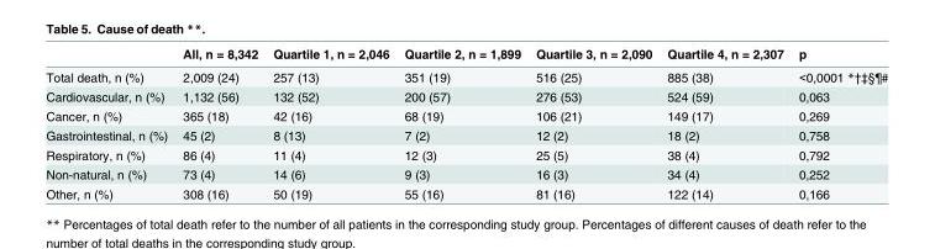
<table><thead><tr><td></td><td>All, n = 8,342</td><td>Quartile 1, n = 2,046</td><td>Quartile 2, n = 1,899</td><td>Quartile 3, n = 2,090</td><td>Quartile 4, n = 2,307</td><td>p</td></tr></thead><tbody><tr><td>Total death, n (%)</td><td>2,009 (24)</td><td>257 (13)</td><td>351 (19)</td><td>516 (25)</td><td>885 (38)</td><td>&lt;0,0001 *†‡§¶#</td></tr><tr><td>Cardiovascular, n (%)</td><td>1,132 (56)</td><td>132 (52)</td><td>200 (57)</td><td>276 (53)</td><td>524 (59)</td><td>0,063</td></tr><tr><td>Cancer, n (%)</td><td>365 (18)</td><td>42 (16)</td><td>68 (19)</td><td>106 (21)</td><td>149 (17)</td><td>0,269</td></tr><tr><td>Gastrointestinal, n (%)</td><td>45 (2)</td><td>8 (13)</td><td>7 (2)</td><td>12 (2)</td><td>18 (2)</td><td>0,758</td></tr><tr><td>Respiratory, n (%)</td><td>86 (4)</td><td>11 (4)</td><td>12 (3)</td><td>25 (5)</td><td>38 (4)</td><td>0,792</td></tr><tr><td>Non-natural, n (%)</td><td>73 (4)</td><td>14 (6)</td><td>9 (3)</td><td>16 (3)</td><td>34 (4)</td><td>0,252</td></tr><tr><td>Other, n (%)</td><td>308 (16)</td><td>50 (19)</td><td>55 (16)</td><td>81 (16)</td><td>122 (14)</td><td>0,166</td></tr></tbody></table>